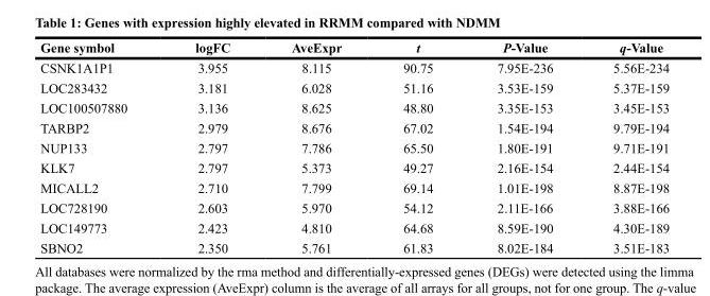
<table><thead><tr><td>Gene symbol</td><td>logFC</td><td>AveExpr</td><td>t</td><td>P-Value</td><td>q-Value</td></tr></thead><tbody><tr><td>CSNK1A1P1</td><td>3.955</td><td>8.115</td><td>90.75</td><td>7.95E-236</td><td>5.56E-234</td></tr><tr><td>LOC283432</td><td>3.181</td><td>6.028</td><td>51.16</td><td>3.53E-159</td><td>5.37E-159</td></tr><tr><td>LOC100507880</td><td>3.136</td><td>8.625</td><td>48.80</td><td>3.35E-153</td><td>3.45E-153</td></tr><tr><td>TARBP2</td><td>2.979</td><td>8.676</td><td>67.02</td><td>1.54E-194</td><td>9.79E-194</td></tr><tr><td>NUP133</td><td>2.797</td><td>7.786</td><td>65.50</td><td>1.80E-191</td><td>9.71E-191</td></tr><tr><td>KLK7</td><td>2.797</td><td>5.373</td><td>49.27</td><td>2.16E-154</td><td>2.44E-154</td></tr><tr><td>MICALL2</td><td>2.710</td><td>7.799</td><td>69.14</td><td>1.01E-198</td><td>8.87E-198</td></tr><tr><td>LOC728190</td><td>2.603</td><td>5.970</td><td>54.12</td><td>2.11E-166</td><td>3.88E-166</td></tr><tr><td>LOC149773</td><td>2.423</td><td>4.810</td><td>64.68</td><td>8.59E-190</td><td>4.30E-189</td></tr><tr><td>SBNO2</td><td>2.350</td><td>5.761</td><td>61.83</td><td>8.02E-184</td><td>3.51E-183</td></tr></tbody></table>